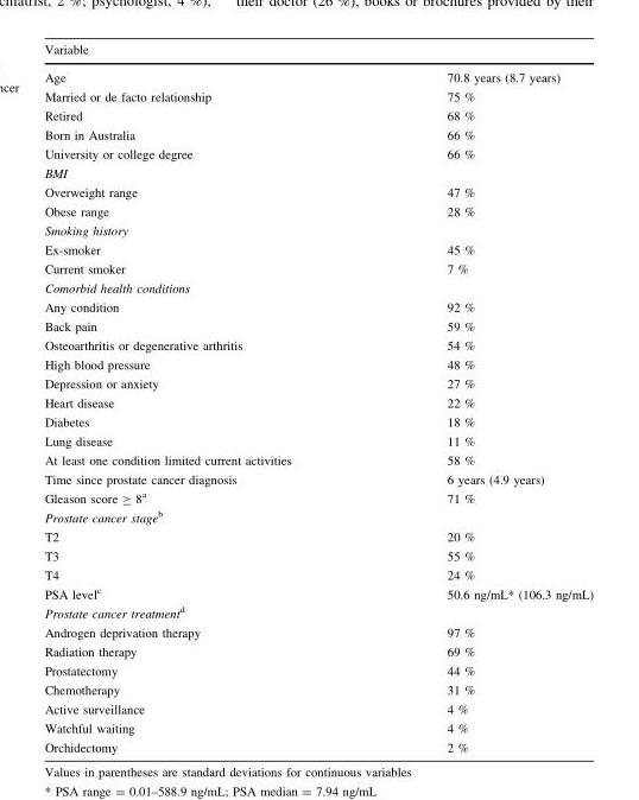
<table><thead><tr><td>Variable</td><td></td></tr></thead><tbody><tr><td>Age</td><td>70.8 years (8.7 years)</td></tr><tr><td>Married or de facto relationship</td><td>75 %</td></tr><tr><td>Retired</td><td>68 %</td></tr><tr><td>Born in Australia</td><td>66 %</td></tr><tr><td>University or college degree</td><td>66 %</td></tr><tr><td colspan="2">BMI</td></tr><tr><td>Overweight range</td><td>47 %</td></tr><tr><td>Obese range</td><td>28 %</td></tr><tr><td colspan="2">Smoking history</td></tr><tr><td>Ex-smoker</td><td>45 %</td></tr><tr><td>Current smoker</td><td>7 %</td></tr><tr><td colspan="2">Comorbid health conditions</td></tr><tr><td>Any condition</td><td>92 %</td></tr><tr><td>Back pain</td><td>59 %</td></tr><tr><td>Osteoarthritis or degenerative arthritis</td><td>54 %</td></tr><tr><td>High blood pressure</td><td>48 %</td></tr><tr><td>Depression or anxiety</td><td>27 %</td></tr><tr><td>Heart disease</td><td>22 %</td></tr><tr><td>Diabetes</td><td>18 %</td></tr><tr><td>Lung disease</td><td>11 %</td></tr><tr><td>At least one condition limited current activities</td><td>58 %</td></tr><tr><td>Time since prostate cancer diagnosis</td><td>6 years (4.9 years)</td></tr><tr><td>Gleason score ≥ 8<sup>a</sup></td><td>71 %</td></tr><tr><td colspan="2">Prostate cancer stage<sup>b</sup></td></tr><tr><td>T2</td><td>20 %</td></tr><tr><td>T3</td><td>55 %</td></tr><tr><td>T4</td><td>24 %</td></tr><tr><td>PSA level<sup>c</sup></td><td>50.6 ng/mL* (106.3 ng/mL)</td></tr><tr><td colspan="2">Prostate cancer treatment<sup>d</sup></td></tr><tr><td>Androgen deprivation therapy</td><td>97 %</td></tr><tr><td>Radiation therapy</td><td>69 %</td></tr><tr><td>Prostatectomy</td><td>44 %</td></tr><tr><td>Chemotherapy</td><td>31 %</td></tr><tr><td>Active surveillance</td><td>4 %</td></tr><tr><td>Watchful waiting</td><td>4 %</td></tr><tr><td>Orchidectomy</td><td>2 %</td></tr></tbody></table>